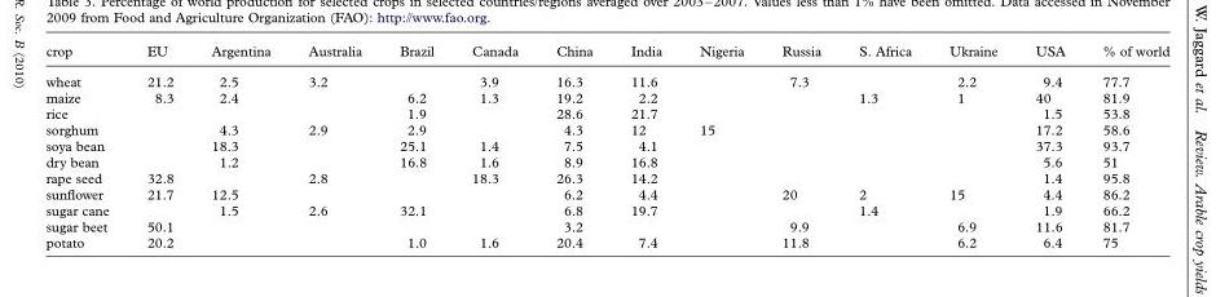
<table><thead><tr><td>crop</td><td>EU</td><td>Argentina</td><td>Australia</td><td>Brazil</td><td>Canada</td><td>China</td><td>India</td><td>Nigeria</td><td>Russia</td><td>S. Africa</td><td>Ukraine</td><td>USA</td><td>% of world</td></tr></thead><tbody><tr><td>wheat</td><td>21.2</td><td>2.5</td><td>3.2</td><td></td><td>3.9</td><td>16.3</td><td>11.6</td><td></td><td>7.3</td><td></td><td>2.2</td><td>9.4</td><td>77.7</td></tr><tr><td>maize</td><td>8.3</td><td>2.4</td><td></td><td>6.2</td><td>1.3</td><td>19.2</td><td>2.2</td><td></td><td></td><td>1.3</td><td>1</td><td>40</td><td>81.9</td></tr><tr><td>rice</td><td></td><td></td><td></td><td>1.9</td><td></td><td>28.6</td><td>21.7</td><td></td><td></td><td></td><td></td><td>1.5</td><td>53.8</td></tr><tr><td>sorghum</td><td></td><td>4.3</td><td>2.9</td><td>2.9</td><td></td><td>4.3</td><td>12</td><td>15</td><td></td><td></td><td></td><td>17.2</td><td>58.6</td></tr><tr><td>soya bean</td><td></td><td>18.3</td><td></td><td>25.1</td><td>1.4</td><td>7.5</td><td>4.1</td><td></td><td></td><td></td><td></td><td>37.3</td><td>93.7</td></tr><tr><td>dry bean</td><td></td><td>1.2</td><td></td><td>16.8</td><td>1.6</td><td>8.9</td><td>16.8</td><td></td><td></td><td></td><td></td><td>5.6</td><td>51</td></tr><tr><td>rape seed</td><td>32.8</td><td></td><td>2.8</td><td></td><td>18.3</td><td>26.3</td><td>14.2</td><td></td><td></td><td></td><td></td><td>1.4</td><td>95.8</td></tr><tr><td>sunflower</td><td>21.7</td><td>12.5</td><td></td><td></td><td></td><td>6.2</td><td>4.4</td><td></td><td>20</td><td>2</td><td>15</td><td>4.4</td><td>86.2</td></tr><tr><td>sugar cane</td><td></td><td>1.5</td><td>2.6</td><td>32.1</td><td></td><td>6.8</td><td>19.7</td><td></td><td></td><td>1.4</td><td></td><td>1.9</td><td>66.2</td></tr><tr><td>sugar beet</td><td>50.1</td><td></td><td></td><td></td><td></td><td>3.2</td><td></td><td></td><td>9.9</td><td></td><td>6.9</td><td>11.6</td><td>81.7</td></tr><tr><td>potato</td><td>20.2</td><td></td><td></td><td>1.0</td><td>1.6</td><td>20.4</td><td>7.4</td><td></td><td>11.8</td><td></td><td>6.2</td><td>6.4</td><td>75</td></tr></tbody></table>